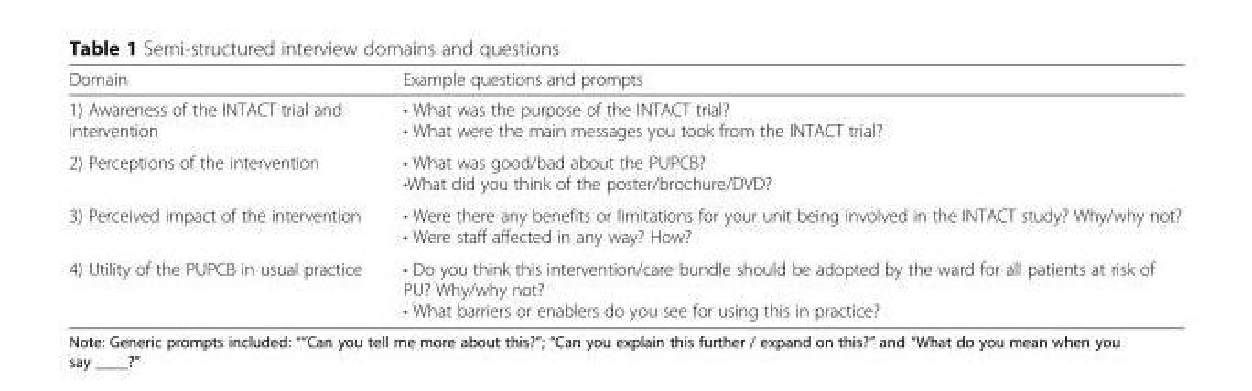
<table><thead><tr><td>Domain</td><td>Example questions and prompts</td></tr></thead><tbody><tr><td>1) Awareness of the INTACT trial and intervention</td><td>• What was the purpose of the INTACT trial? • What were the main messages you took from the INTACT trial?</td></tr><tr><td>2) Perceptions of the intervention</td><td>• What was good/bad about the PUPCB? •What did you think of the poster/brochure/DVD?</td></tr><tr><td>3) Perceived impact of the intervention</td><td>• Were there any benefits or limitations for your unit being involved in the INTACT study? Why/why not? • Were staff affected in any way? How?</td></tr><tr><td>4) Utility of the PUPCB in usual practice</td><td>• Do you think this intervention/care bundle should be adopted by the ward for all patients at risk of PU? Why/why not? • What barriers or enablers do you see for using this in practice?</td></tr></tbody></table>